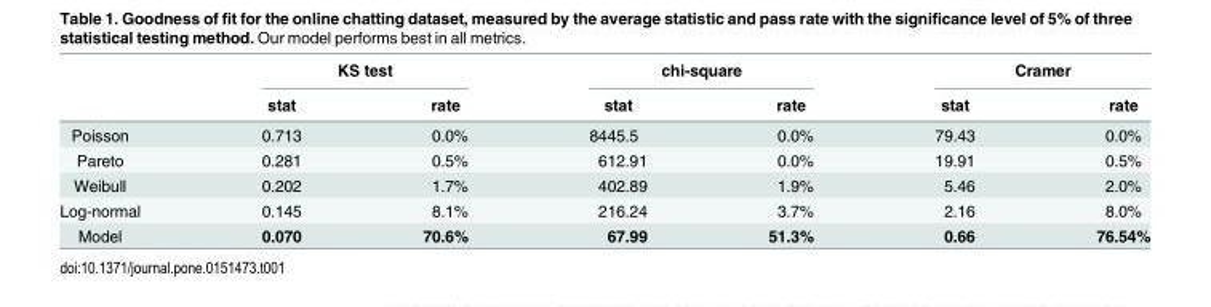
<table><thead><tr><td rowspan="2"></td><td colspan="2">KS test</td><td colspan="2">chi-square</td><td colspan="2">Cramer</td></tr><tr><td>stat</td><td>rate</td><td>stat</td><td>rate</td><td>stat</td><td>rate</td></tr></thead><tbody><tr><td>Poisson</td><td>0.713</td><td>0.0%</td><td>8445.5</td><td>0.0%</td><td>79.43</td><td>0.0%</td></tr><tr><td>Pareto</td><td>0.281</td><td>0.5%</td><td>612.91</td><td>0.0%</td><td>19.91</td><td>0.5%</td></tr><tr><td>Weibull</td><td>0.202</td><td>1.7%</td><td>402.89</td><td>1.9%</td><td>5.46</td><td>2.0%</td></tr><tr><td>Log-normal</td><td>0.145</td><td>8.1%</td><td>216.24</td><td>3.7%</td><td>2.16</td><td>8.0%</td></tr><tr><td>Model</td><td>0.070</td><td>70.6%</td><td>67.99</td><td>51.3%</td><td>0.66</td><td>76.54%</td></tr></tbody></table>